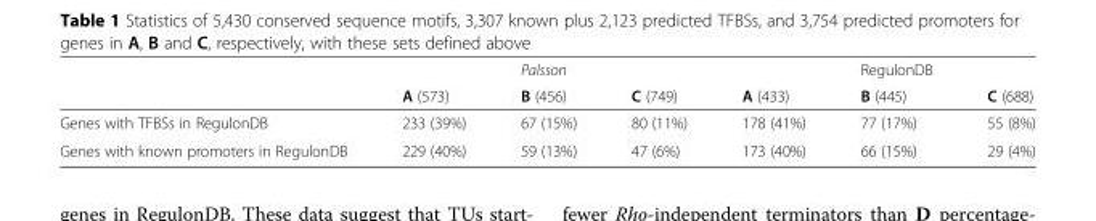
<table><thead><tr><td rowspan="2"></td><td rowspan="2">A (573)</td><td rowspan="2">Palsson B (456)</td><td rowspan="2">C (749)</td><td rowspan="2">A (433)</td><td rowspan="2">RegulonDB B (445)</td><td rowspan="2">C (688)</td></tr><tr></tr></thead><tbody><tr><td>Genes with TFBSs in RegulonDB</td><td>233 (39%)</td><td>67 (15%)</td><td>80 (11%)</td><td>178 (41%)</td><td>77 (17%)</td><td>55 (8%)</td></tr><tr><td>Genes with known promoters in RegulonDB</td><td>229 (40%)</td><td>59 (13%)</td><td>47 (6%)</td><td>173 (40%)</td><td>66 (15%)</td><td>29 (4%)</td></tr></tbody></table>